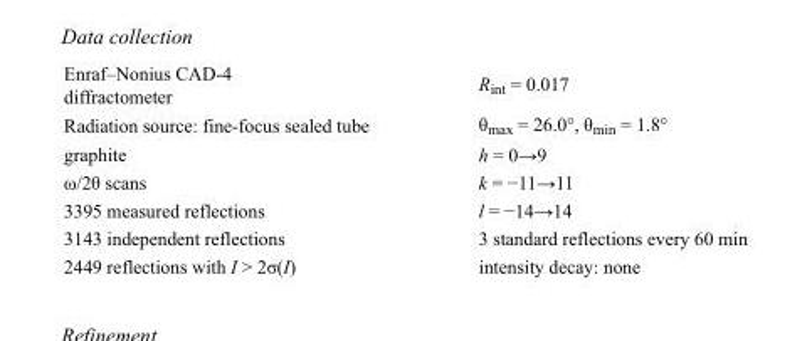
<table><tbody><tr><td>Enraf–Nonius CAD-4 diffractometer</td><td>R<sub>int</sub> = 0.017</td></tr><tr><td>Radiation source: fine-focus sealed tube</td><td>θ<sub>max</sub> = 26.0°, θ<sub>min</sub> = 1.8°</td></tr><tr><td>graphite</td><td>h = 0→9</td></tr><tr><td>ω/2θ scans</td><td>k = −11→11</td></tr><tr><td>3395 measured reflections</td><td>l = −14→14</td></tr><tr><td>3143 independent reflections</td><td>3 standard reflections every 60 min</td></tr><tr><td>2449 reflections with I &gt; 2σ(I)</td><td>intensity decay: none</td></tr></tbody></table>